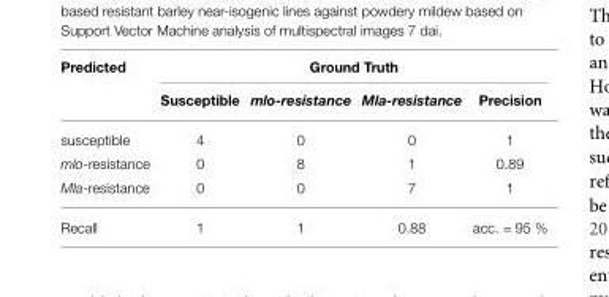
<table><thead><tr><td rowspan="2">Predicted</td><td colspan="4">Ground Truth</td></tr><tr><td>Susceptible</td><td>mlo-resistance</td><td>Mla-resistance</td><td>Precision</td></tr></thead><tbody><tr><td>susceptible</td><td>4</td><td>0</td><td>0</td><td>1</td></tr><tr><td>mlo-resistance</td><td>0</td><td>8</td><td>1</td><td>0.89</td></tr><tr><td>Mla-resistance</td><td>0</td><td>0</td><td>7</td><td>1</td></tr><tr><td>Recall</td><td>1</td><td>1</td><td>0.88</td><td>acc. = 95 %</td></tr></tbody></table>